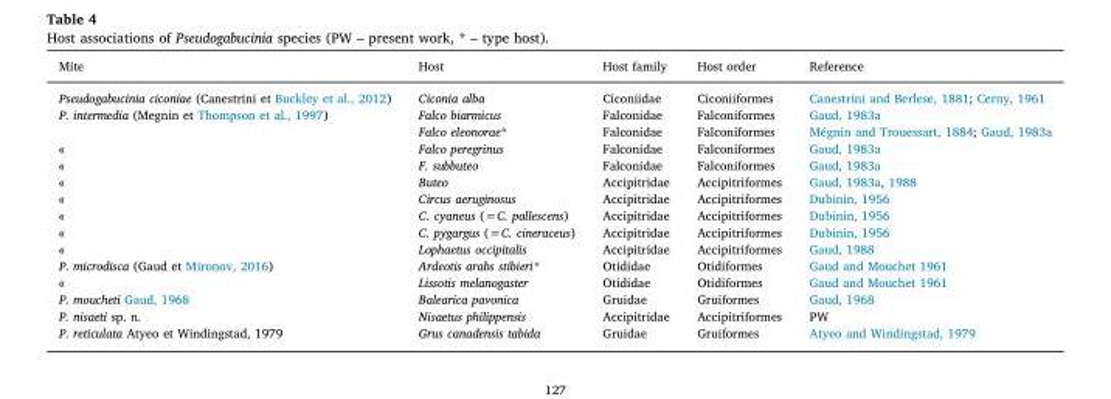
<table><thead><tr><td>Mite</td><td>Host</td><td>Host family</td><td>Host order</td><td>Reference</td></tr></thead><tbody><tr><td>Pseudogabucinia ciconiae (Canestrini et Buckley et al., 2012)</td><td>Ciconia alba</td><td>Ciconiidae</td><td>Ciconiiformes</td><td>Canestrini and Berlese, 1881; Cerny, 1961</td></tr><tr><td rowspan="2">P. intermedia (Megnin et Thompson et al., 1997)</td><td>Falco biarmicus</td><td>Falconidae</td><td>Falconiformes</td><td>Gaud, 1983a</td></tr><tr><td>Falco eleonorae*</td><td>Falconidae</td><td>Falconiformes</td><td>Mégnin and Trouessart, 1884; Gaud, 1983a</td></tr><tr><td>«</td><td>Falco peregrinus</td><td>Falconidae</td><td>Falconiformes</td><td>Gaud, 1983a</td></tr><tr><td>«</td><td>F. subbuteo</td><td>Falconidae</td><td>Falconiformes</td><td>Gaud, 1983a</td></tr><tr><td>«</td><td>Buteo</td><td>Accipitridae</td><td>Accipitriformes</td><td>Gaud, 1983a, 1988</td></tr><tr><td>«</td><td>Circus aeruginosus</td><td>Accipitridae</td><td>Accipitriformes</td><td>Dubinin, 1956</td></tr><tr><td>«</td><td>C. cyaneus (=C. pallescens)</td><td>Accipitridae</td><td>Accipitriformes</td><td>Dubinin, 1956</td></tr><tr><td>«</td><td>C. pygargus (=C. cineraceus)</td><td>Accipitridae</td><td>Accipitriformes</td><td>Dubinin, 1956</td></tr><tr><td>«</td><td>Lophaetus occipitalis</td><td>Accipitridae</td><td>Accipitriformes</td><td>Gaud, 1988</td></tr><tr><td>P. microdisca (Gaud et Mironov, 2016)</td><td>Ardeotis arabs stibieri*</td><td>Otididae</td><td>Otidiformes</td><td>Gaud and Mouchet 1961</td></tr><tr><td>«</td><td>Lissotis melanogaster</td><td>Otididae</td><td>Otidiformes</td><td>Gaud and Mouchet 1961</td></tr><tr><td>P. moucheti Gaud, 1968</td><td>Balearica pavonica</td><td>Gruidae</td><td>Gruiformes</td><td>Gaud, 1968</td></tr><tr><td>P. nisaeti sp. n.</td><td>Nisaetus philippensis</td><td>Accipitridae</td><td>Accipitriformes</td><td>PW</td></tr><tr><td>P. reticulata Atyeo et Windingstad, 1979</td><td>Grus canadensis tabida</td><td>Gruidae</td><td>Gruiformes</td><td>Atyeo and Windingstad, 1979</td></tr></tbody></table>